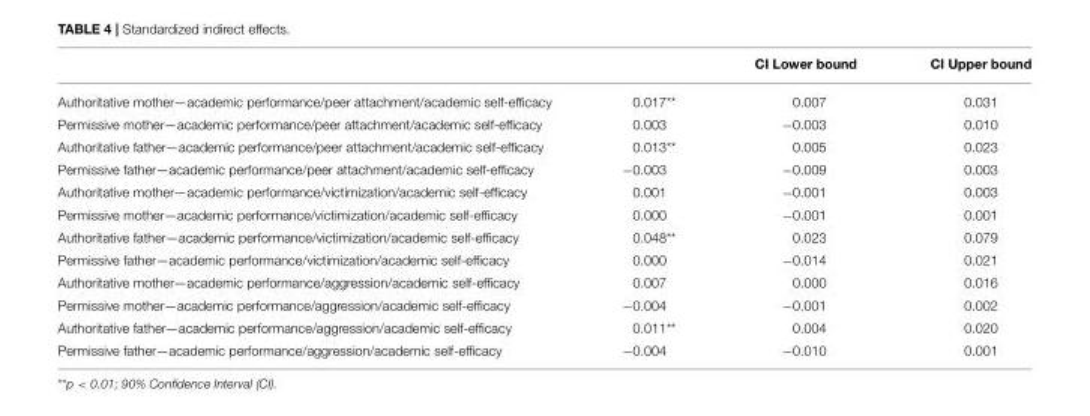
<table><thead><tr><td></td><td></td><td>CI Lower bound</td><td>CI Upper bound</td></tr></thead><tbody><tr><td>Authoritative mother—academic performance/peer attachment/academic self-efficacy</td><td>0.017**</td><td>0.007</td><td>0.031</td></tr><tr><td>Permissive mother—academic performance/peer attachment/academic self-efficacy</td><td>0.003</td><td>−0.003</td><td>0.010</td></tr><tr><td>Authoritative father—academic performance/peer attachment/academic self-efficacy</td><td>0.013**</td><td>0.005</td><td>0.023</td></tr><tr><td>Permissive father—academic performance/peer attachment/academic self-efficacy</td><td>−0.003</td><td>−0.009</td><td>0.003</td></tr><tr><td>Authoritative mother—academic performance/victimization/academic self-efficacy</td><td>0.001</td><td>−0.001</td><td>0.003</td></tr><tr><td>Permissive mother—academic performance/victimization/academic self-efficacy</td><td>0.000</td><td>−0.001</td><td>0.001</td></tr><tr><td>Authoritative father—academic performance/victimization/academic self-efficacy</td><td>0.048**</td><td>0.023</td><td>0.079</td></tr><tr><td>Permissive father—academic performance/victimization/academic self-efficacy</td><td>0.000</td><td>−0.014</td><td>0.021</td></tr><tr><td>Authoritative mother—academic performance/aggression/academic self-efficacy</td><td>0.007</td><td>0.000</td><td>0.016</td></tr><tr><td>Permissive mother—academic performance/aggression/academic self-efficacy</td><td>−0.004</td><td>−0.001</td><td>0.002</td></tr><tr><td>Authoritative father—academic performance/aggression/academic self-efficacy</td><td>0.011**</td><td>0.004</td><td>0.020</td></tr><tr><td>Permissive father—academic performance/aggression/academic self-efficacy</td><td>−0.004</td><td>−0.010</td><td>0.001</td></tr></tbody></table>